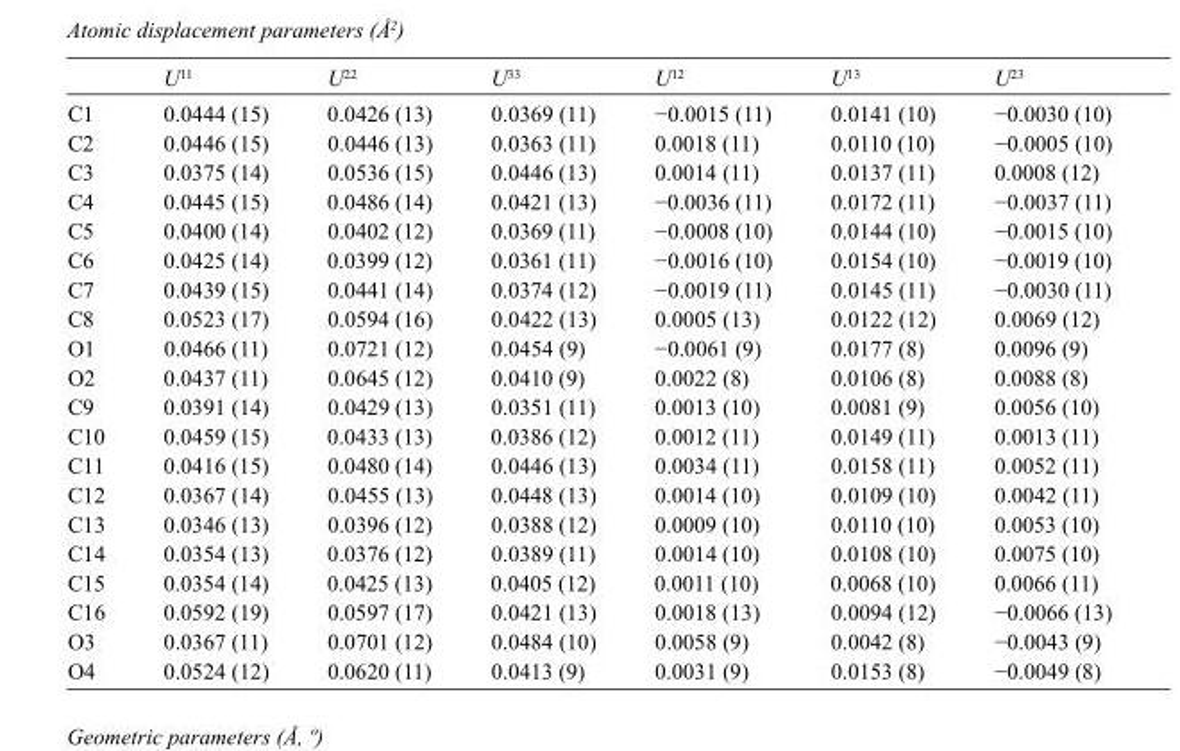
<table><thead><tr><td></td><td>U<sup>11</sup></td><td>U<sup>22</sup></td><td>U<sup>33</sup></td><td>U<sup>12</sup></td><td>U<sup>13</sup></td><td>U<sup>23</sup></td></tr></thead><tbody><tr><td>C1</td><td>0.0444 (15)</td><td>0.0426 (13)</td><td>0.0369 (11)</td><td>−0.0015 (11)</td><td>0.0141 (10)</td><td>−0.0030 (10)</td></tr><tr><td>C2</td><td>0.0446 (15)</td><td>0.0446 (13)</td><td>0.0363 (11)</td><td>0.0018 (11)</td><td>0.0110 (10)</td><td>−0.0005 (10)</td></tr><tr><td>C3</td><td>0.0375 (14)</td><td>0.0536 (15)</td><td>0.0446 (13)</td><td>0.0014 (11)</td><td>0.0137 (11)</td><td>0.0008 (12)</td></tr><tr><td>C4</td><td>0.0445 (15)</td><td>0.0486 (14)</td><td>0.0421 (13)</td><td>−0.0036 (11)</td><td>0.0172 (11)</td><td>−0.0037 (11)</td></tr><tr><td>C5</td><td>0.0400 (14)</td><td>0.0402 (12)</td><td>0.0369 (11)</td><td>−0.0008 (10)</td><td>0.0144 (10)</td><td>−0.0015 (10)</td></tr><tr><td>C6</td><td>0.0425 (14)</td><td>0.0399 (12)</td><td>0.0361 (11)</td><td>−0.0016 (10)</td><td>0.0154 (10)</td><td>−0.0019 (10)</td></tr><tr><td>C7</td><td>0.0439 (15)</td><td>0.0441 (14)</td><td>0.0374 (12)</td><td>−0.0019 (11)</td><td>0.0145 (11)</td><td>−0.0030 (11)</td></tr><tr><td>C8</td><td>0.0523 (17)</td><td>0.0594 (16)</td><td>0.0422 (13)</td><td>0.0005 (13)</td><td>0.0122 (12)</td><td>0.0069 (12)</td></tr><tr><td>O1</td><td>0.0466 (11)</td><td>0.0721 (12)</td><td>0.0454 (9)</td><td>−0.0061 (9)</td><td>0.0177 (8)</td><td>0.0096 (9)</td></tr><tr><td>O2</td><td>0.0437 (11)</td><td>0.0645 (12)</td><td>0.0410 (9)</td><td>0.0022 (8)</td><td>0.0106 (8)</td><td>0.0088 (8)</td></tr><tr><td>C9</td><td>0.0391 (14)</td><td>0.0429 (13)</td><td>0.0351 (11)</td><td>0.0013 (10)</td><td>0.0081 (9)</td><td>0.0056 (10)</td></tr><tr><td>C10</td><td>0.0459 (15)</td><td>0.0433 (13)</td><td>0.0386 (12)</td><td>0.0012 (11)</td><td>0.0149 (11)</td><td>0.0013 (11)</td></tr><tr><td>C11</td><td>0.0416 (15)</td><td>0.0480 (14)</td><td>0.0446 (13)</td><td>0.0034 (11)</td><td>0.0158 (11)</td><td>0.0052 (11)</td></tr><tr><td>C12</td><td>0.0367 (14)</td><td>0.0455 (13)</td><td>0.0448 (13)</td><td>0.0014 (10)</td><td>0.0109 (10)</td><td>0.0042 (11)</td></tr><tr><td>C13</td><td>0.0346 (13)</td><td>0.0396 (12)</td><td>0.0388 (12)</td><td>0.0009 (10)</td><td>0.0110 (10)</td><td>0.0053 (10)</td></tr><tr><td>C14</td><td>0.0354 (13)</td><td>0.0376 (12)</td><td>0.0389 (11)</td><td>0.0014 (10)</td><td>0.0108 (10)</td><td>0.0075 (10)</td></tr><tr><td>C15</td><td>0.0354 (14)</td><td>0.0425 (13)</td><td>0.0405 (12)</td><td>0.0011 (10)</td><td>0.0068 (10)</td><td>0.0066 (11)</td></tr><tr><td>C16</td><td>0.0592 (19)</td><td>0.0597 (17)</td><td>0.0421 (13)</td><td>0.0018 (13)</td><td>0.0094 (12)</td><td>−0.0066 (13)</td></tr><tr><td>O3</td><td>0.0367 (11)</td><td>0.0701 (12)</td><td>0.0484 (10)</td><td>0.0058 (9)</td><td>0.0042 (8)</td><td>−0.0043 (9)</td></tr><tr><td>O4</td><td>0.0524 (12)</td><td>0.0620 (11)</td><td>0.0413 (9)</td><td>0.0031 (9)</td><td>0.0153 (8)</td><td>−0.0049 (8)</td></tr></tbody></table>